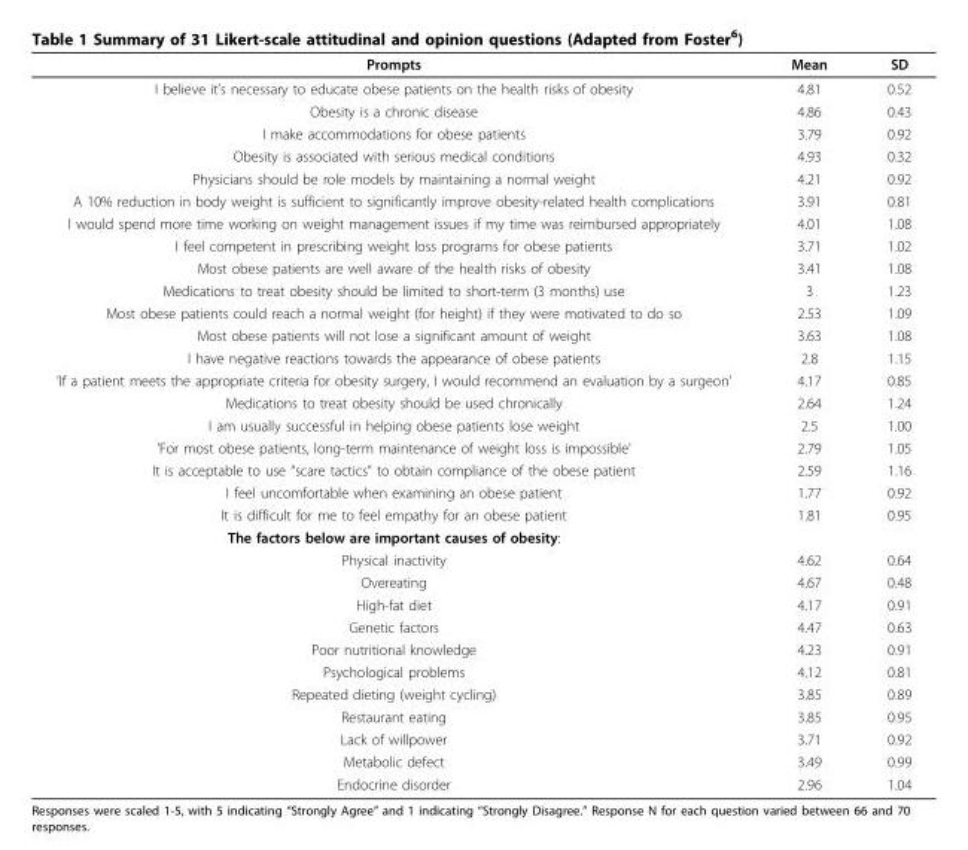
<table><thead><tr><td>Prompts</td><td>Mean</td><td>SD</td></tr></thead><tbody><tr><td>I believe it’s necessary to educate obese patients on the health risks of obesity</td><td>4.81</td><td>0.52</td></tr><tr><td>Obesity is a chronic disease</td><td>4.86</td><td>0.43</td></tr><tr><td>I make accommodations for obese patients</td><td>3.79</td><td>0.92</td></tr><tr><td>Obesity is associated with serious medical conditions</td><td>4.93</td><td>0.32</td></tr><tr><td>Physicians should be role models by maintaining a normal weight</td><td>4.21</td><td>0.92</td></tr><tr><td>A 10% reduction in body weight is sufficient to significantly improve obesity-related health complications</td><td>3.91</td><td>0.81</td></tr><tr><td>I would spend more time working on weight management issues if my time was reimbursed appropriately</td><td>4.01</td><td>1.08</td></tr><tr><td>I feel competent in prescribing weight loss programs for obese patients</td><td>3.71</td><td>1.02</td></tr><tr><td>Most obese patients are well aware of the health risks of obesity</td><td>3.41</td><td>1.08</td></tr><tr><td>Medications to treat obesity should be limited to short-term (3 months) use</td><td>3</td><td>1.23</td></tr><tr><td>Most obese patients could reach a normal weight (for height) if they were motivated to do so</td><td>2.53</td><td>1.09</td></tr><tr><td>Most obese patients will not lose a significant amount of weight</td><td>3.63</td><td>1.08</td></tr><tr><td>I have negative reactions towards the appearance of obese patients</td><td>2.8</td><td>1.15</td></tr><tr><td>’If a patient meets the appropriate criteria for obesity surgery, I would recommend an evaluation by a surgeon’</td><td>4.17</td><td>0.85</td></tr><tr><td>Medications to treat obesity should be used chronically</td><td>2.64</td><td>1.24</td></tr><tr><td>I am usually successful in helping obese patients lose weight</td><td>2.5</td><td>1.00</td></tr><tr><td>’For most obese patients, long-term maintenance of weight loss is impossible’</td><td>2.79</td><td>1.05</td></tr><tr><td>It is acceptable to use “scare tactics” to obtain compliance of the obese patient</td><td>2.59</td><td>1.16</td></tr><tr><td>I feel uncomfortable when examining an obese patient</td><td>1.77</td><td>0.92</td></tr><tr><td>It is difficult for me to feel empathy for an obese patient</td><td>1.81</td><td>0.95</td></tr><tr><td colspan="3">The factors below are important causes of obesity:</td></tr><tr><td>Physical inactivity</td><td>4.62</td><td>0.64</td></tr><tr><td>Overeating</td><td>4.67</td><td>0.48</td></tr><tr><td>High-fat diet</td><td>4.17</td><td>0.91</td></tr><tr><td>Genetic factors</td><td>4.47</td><td>0.63</td></tr><tr><td>Poor nutritional knowledge</td><td>4.23</td><td>0.91</td></tr><tr><td>Psychological problems</td><td>4.12</td><td>0.81</td></tr><tr><td>Repeated dieting (weight cycling)</td><td>3.85</td><td>0.89</td></tr><tr><td>Restaurant eating</td><td>3.85</td><td>0.95</td></tr><tr><td>Lack of willpower</td><td>3.71</td><td>0.92</td></tr><tr><td>Metabolic defect</td><td>3.49</td><td>0.99</td></tr><tr><td>Endocrine disorder</td><td>2.96</td><td>1.04</td></tr></tbody></table>